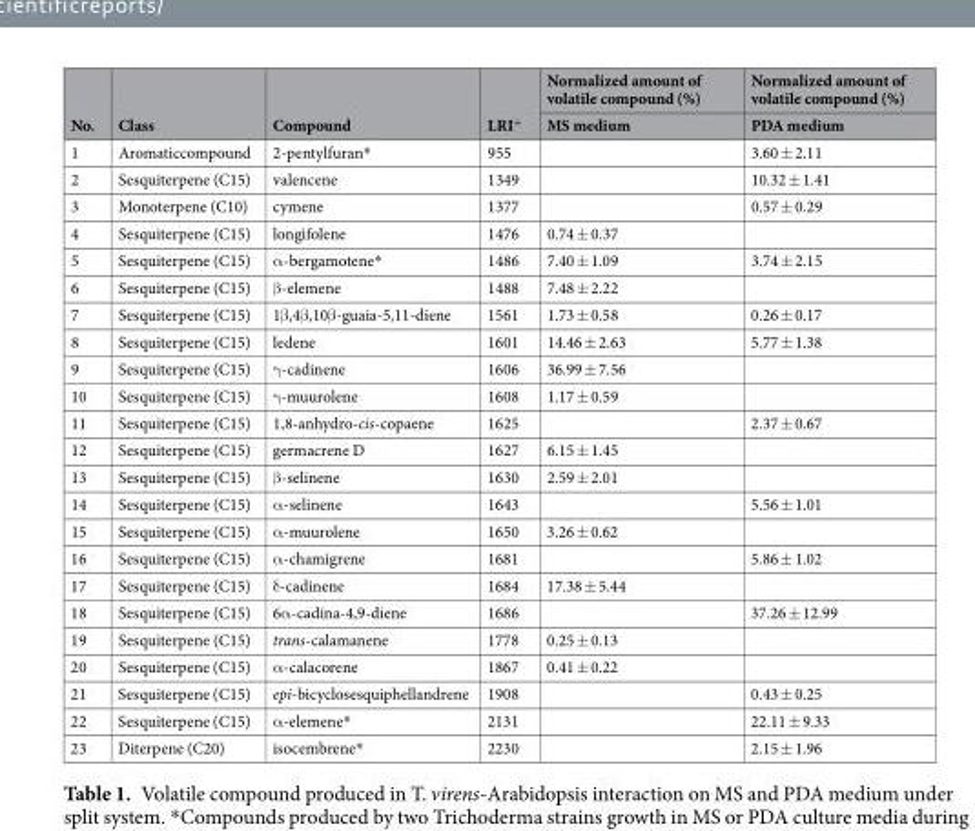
<table><thead><tr><td rowspan="2">No.</td><td rowspan="2">Class</td><td rowspan="2">Compound</td><td rowspan="2">LRI<sup>+</sup></td><td rowspan="2">Normalized amount of volatile compound (%) MS medium</td><td rowspan="2">Normalized amount of volatile compound (%) PDA medium</td></tr><tr></tr></thead><tbody><tr><td>1</td><td>Aromaticcompound</td><td>2-pentylfuran*</td><td>955</td><td></td><td>3.60 ± 2.11</td></tr><tr><td>2</td><td>Sesquiterpene (C15)</td><td>valencene</td><td>1349</td><td></td><td>10.32 ± 1.41</td></tr><tr><td>3</td><td>Monoterpene (C10)</td><td>cymene</td><td>1377</td><td></td><td>0.57 ± 0.29</td></tr><tr><td>4</td><td>Sesquiterpene (C15)</td><td>longifolene</td><td>1476</td><td>0.74 ± 0.37</td><td></td></tr><tr><td>5</td><td>Sesquiterpene (C15)</td><td>α-bergamotene*</td><td>1486</td><td>7.40 ± 1.09</td><td>3.74 ± 2.15</td></tr><tr><td>6</td><td>Sesquiterpene (C15)</td><td>β-elemene</td><td>1488</td><td>7.48 ± 2.22</td><td></td></tr><tr><td>7</td><td>Sesquiterpene (C15)</td><td>1β,4β,10β-guaia-5,11-diene</td><td>1561</td><td>1.73 ± 0.58</td><td>0.26 ± 0.17</td></tr><tr><td>8</td><td>Sesquiterpene (C15)</td><td>ledene</td><td>1601</td><td>14.46 ± 2.63</td><td>5.77 ± 1.38</td></tr><tr><td>9</td><td>Sesquiterpene (C15)</td><td>γ-cadinene</td><td>1606</td><td>36.99 ± 7.56</td><td></td></tr><tr><td>10</td><td>Sesquiterpene (C15)</td><td>γ-muurolene</td><td>1608</td><td>1.17 ± 0.59</td><td></td></tr><tr><td>11</td><td>Sesquiterpene (C15)</td><td>1,8-anhydro-cis-copaene</td><td>1625</td><td></td><td>2.37 ± 0.67</td></tr><tr><td>12</td><td>Sesquiterpene (C15)</td><td>germacrene D</td><td>1627</td><td>6.15 ± 1.45</td><td></td></tr><tr><td>13</td><td>Sesquiterpene (C15)</td><td>β-selinene</td><td>1630</td><td>2.59 ± 2.01</td><td></td></tr><tr><td>14</td><td>Sesquiterpene (C15)</td><td>α-selinene</td><td>1643</td><td></td><td>5.56 ± 1.01</td></tr><tr><td>15</td><td>Sesquiterpene (C15)</td><td>α-muurolene</td><td>1650</td><td>3.26 ± 0.62</td><td></td></tr><tr><td>16</td><td>Sesquiterpene (C15)</td><td>α-chamigrene</td><td>1681</td><td></td><td>5.86 ± 1.02</td></tr><tr><td>17</td><td>Sesquiterpene (C15)</td><td>δ-cadinene</td><td>1684</td><td>17.38 ± 5.44</td><td></td></tr><tr><td>18</td><td>Sesquiterpene (C15)</td><td>6α-cadina-4,9-diene</td><td>1686</td><td></td><td>37.26 ± 12.99</td></tr><tr><td>19</td><td>Sesquiterpene (C15)</td><td>trans-calamanene</td><td>1778</td><td>0.25 ± 0.13</td><td></td></tr><tr><td>20</td><td>Sesquiterpene (C15)</td><td>α-calacorene</td><td>1867</td><td>0.41 ± 0.22</td><td></td></tr><tr><td>21</td><td>Sesquiterpene (C15)</td><td>epi-bicyclosesquiphellandrene</td><td>1908</td><td></td><td>0.43 ± 0.25</td></tr><tr><td>22</td><td>Sesquiterpene (C15)</td><td>α-elemene*</td><td>2131</td><td></td><td>22.11 ± 9.33</td></tr><tr><td>23</td><td>Diterpene (C20)</td><td>isocembrene*</td><td>2230</td><td></td><td>2.15 ± 1.96</td></tr></tbody></table>